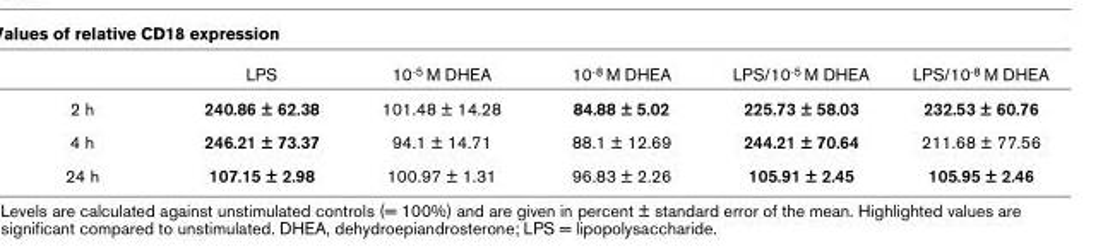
<table><thead><tr><td></td><td>LPS</td><td>10-5 M DHEA</td><td>10-8 M DHEA</td><td>LPS/10-5 M DHEA</td><td>LPS/10-8 M DHEA</td></tr></thead><tbody><tr><td>2 h</td><td>240.86 ± 62.38</td><td>101.48 ± 14.28</td><td>84.88 ± 5.02</td><td>225.73 ± 58.03</td><td>232.53 ± 60.76</td></tr><tr><td>4 h</td><td>246.21 ± 73.37</td><td>94.1 ± 14.71</td><td>88.1 ± 12.69</td><td>244.21 ± 70.64</td><td>211.68 ± 77.56</td></tr><tr><td>24 h</td><td>107.15 ± 2.98</td><td>100.97 ± 1.31</td><td>96.83 ± 2.26</td><td>105.91 ± 2.45</td><td>105.95 ± 2.46</td></tr></tbody></table>